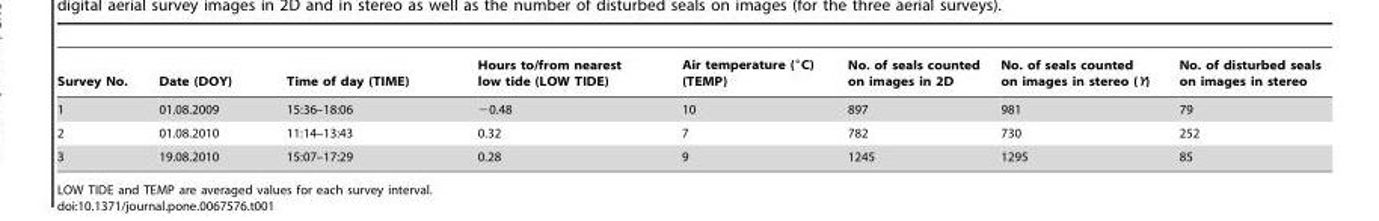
<table><thead><tr><td>Survey No.</td><td>Date (DOY)</td><td>Time of day (TIME)</td><td>Hours to/from nearest low tide (LOW TIDE)</td><td>Air temperature (°C) (TEMP)</td><td>No. of seals counted on images in 2D</td><td>No. of seals counted on images in stereo (Y)</td><td>No. of disturbed seals on images in stereo</td></tr></thead><tbody><tr><td>1</td><td>01.08.2009</td><td>15:36–18:06</td><td>−0.48</td><td>10</td><td>897</td><td>981</td><td>79</td></tr><tr><td>2</td><td>01.08.2010</td><td>11:14–13:43</td><td>0.32</td><td>7</td><td>782</td><td>730</td><td>252</td></tr><tr><td>3</td><td>19.08.2010</td><td>15:07–17:29</td><td>0.28</td><td>9</td><td>1245</td><td>1295</td><td>85</td></tr></tbody></table>